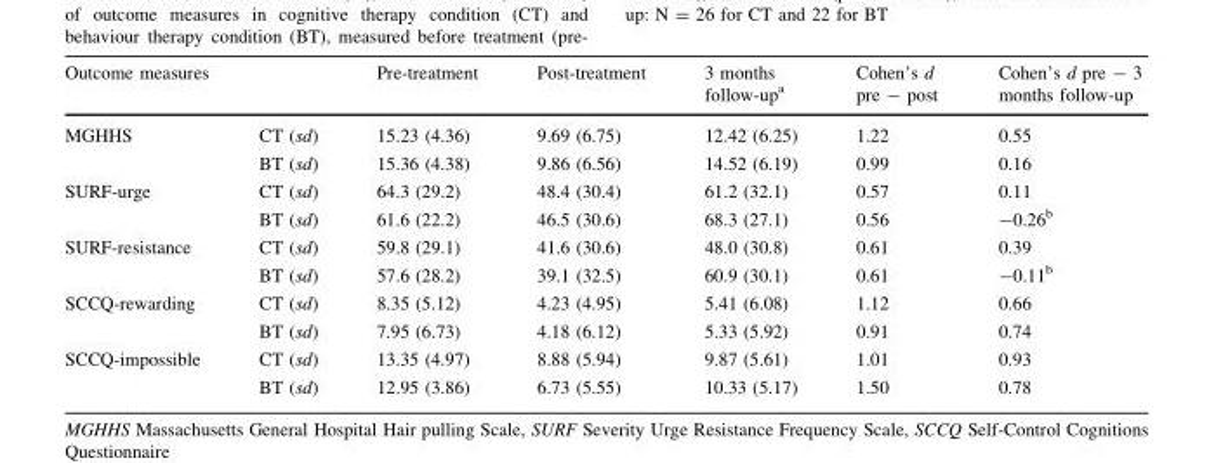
<table><thead><tr><td colspan="2">Outcome measures</td><td rowspan="2">Pre-treatment 15.23 (4.36) 15.36 (4.38)</td><td rowspan="2">Post-treatment 9.69 (6.75) 9.86 (6.56)</td><td rowspan="2">3 months follow-up<sup>a</sup> 12.42 (6.25) 14.52 (6.19)</td><td rowspan="2">Cohen’s d pre - post 1.22 0.99</td><td rowspan="2">Cohen’s d pre - 3 months follow-up 0.55 0.16</td></tr><tr><td>MGHHS</td><td>CT (sd) BT (sd)</td></tr></thead><tbody><tr><td>SURF-urge</td><td>CT (sd) BT (sd)</td><td>64.3 (29.2) 61.6 (22.2)</td><td>48.4 (30.4) 46.5 (30.6)</td><td>61.2 (32.1) 68.3 (27.1)</td><td>0.57 0.56</td><td>0.11 -0.26<sup>b</sup></td></tr><tr><td>SURF-resistance</td><td>CT (sd) BT (sd)</td><td>59.8 (29.1) 57.6 (28.2)</td><td>41.6 (30.6) 39.1 (32.5)</td><td>48.0 (30.8) 60.9 (30.1)</td><td>0.61 0.61</td><td>0.39 -0.11<sup>b</sup></td></tr><tr><td>SCCQ-rewarding</td><td>CT (sd) BT (sd)</td><td>8.35 (5.12) 7.95 (6.73)</td><td>4.23 (4.95) 4.18 (6.12)</td><td>5.41 (6.08) 5.33 (5.92)</td><td>1.12 0.91</td><td>0.66 0.74</td></tr><tr><td>SCCQ-impossible</td><td>CT (sd) BT (sd)</td><td>13.35 (4.97) 12.95 (3.86)</td><td>8.88 (5.94) 6.73 (5.55)</td><td>9.87 (5.61) 10.33 (5.17)</td><td>1.01 1.50</td><td>0.93 0.78</td></tr></tbody></table>